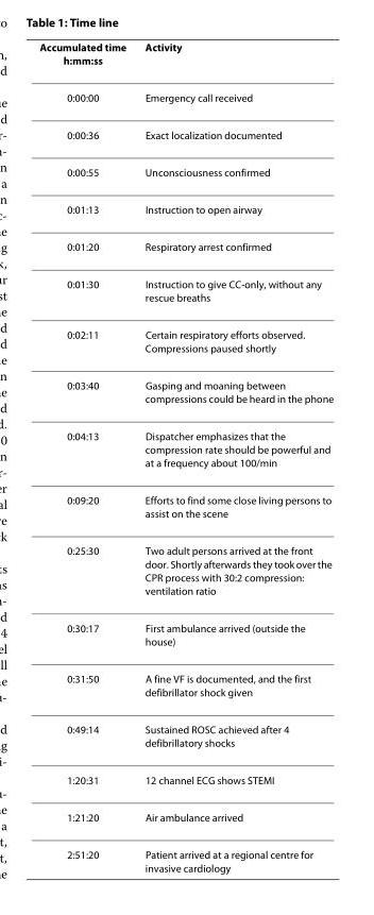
<table><thead><tr><td>Accumulated time h:mm:ss</td><td>Activity</td></tr></thead><tbody><tr><td>0:00:00</td><td>Emergency call received</td></tr><tr><td>0:00:36</td><td>Exact localization documented</td></tr><tr><td>0:00:55</td><td>Unconsciousness confirmed</td></tr><tr><td>0:01:13</td><td>Instruction to open airway</td></tr><tr><td>0:01:20</td><td>Respiratory arrest confirmed</td></tr><tr><td>0:01:30</td><td>Instruction to give CC-only, without any rescue breaths</td></tr><tr><td>0:02:11</td><td>Certain respiratory efforts observed. Compressions paused shortly</td></tr><tr><td>0:03:40</td><td>Gasping and moaning between compressions could be heard in the phone</td></tr><tr><td>0:04:13</td><td>Dispatcher emphasizes that the compression rate should be powerful and at a frequency about 100/min</td></tr><tr><td>0:09:20</td><td>Efforts to find some close living persons to assist on the scene</td></tr><tr><td>0:25:30</td><td>Two adult persons arrived at the front door. Shortly afterwards they took over the CPR process with 30:2 compression: ventilation ratio</td></tr><tr><td>0:30:17</td><td>First ambulance arrived (outside the house)</td></tr><tr><td>0:31:50</td><td>A fine VF is documented, and the first defibrillator shock given</td></tr><tr><td>0:49:14</td><td>Sustained ROSC achieved after 4 defibrillatory shocks</td></tr><tr><td>1:20:31</td><td>12 channel ECG shows STEMI</td></tr><tr><td>1:21:20</td><td>Air ambulance arrived</td></tr><tr><td>2:51:20</td><td>Patient arrived at a regional centre for invasive cardiology</td></tr></tbody></table>